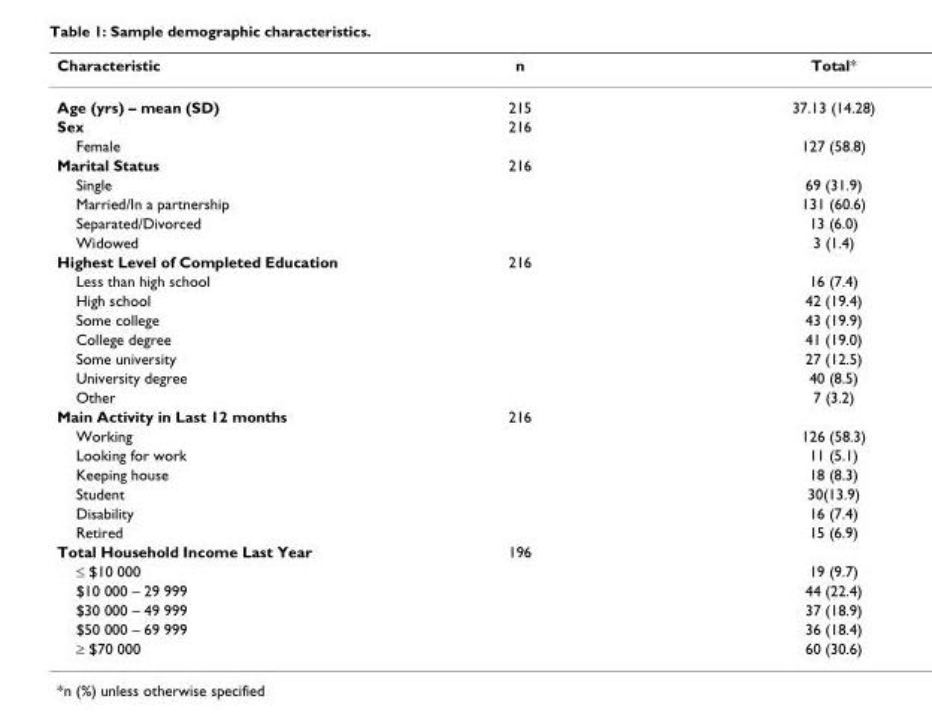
<table><thead><tr><td>Characteristic</td><td>n</td><td>Total*</td></tr></thead><tbody><tr><td>Age (yrs) – mean (SD)</td><td>215</td><td>37.13 (14.28)</td></tr><tr><td>Sex</td><td>216</td><td></td></tr><tr><td>Female</td><td></td><td>127 (58.8)</td></tr><tr><td>Marital Status</td><td>216</td><td></td></tr><tr><td>Single</td><td></td><td>69 (31.9)</td></tr><tr><td>Married/In a partnership</td><td></td><td>131 (60.6)</td></tr><tr><td>Separated/Divorced</td><td></td><td>13 (6.0)</td></tr><tr><td>Widowed</td><td></td><td>3 (1.4)</td></tr><tr><td>Highest Level of Completed Education</td><td>216</td><td></td></tr><tr><td>Less than high school</td><td></td><td>16 (7.4)</td></tr><tr><td>High school</td><td></td><td>42 (19.4)</td></tr><tr><td>Some college</td><td></td><td>43 (19.9)</td></tr><tr><td>College degree</td><td></td><td>41 (19.0)</td></tr><tr><td>Some university</td><td></td><td>27 (12.5)</td></tr><tr><td>University degree</td><td></td><td>40 (8.5)</td></tr><tr><td>Other</td><td></td><td>7 (3.2)</td></tr><tr><td>Main Activity in Last 12 months</td><td>216</td><td></td></tr><tr><td>Working</td><td></td><td>126 (58.3)</td></tr><tr><td>Looking for work</td><td></td><td>11 (5.1)</td></tr><tr><td>Keeping house</td><td></td><td>18 (8.3)</td></tr><tr><td>Student</td><td></td><td>30(13.9)</td></tr><tr><td>Disability</td><td></td><td>16 (7.4)</td></tr><tr><td>Retired</td><td></td><td>15 (6.9)</td></tr><tr><td>Total Household Income Last Year</td><td>196</td><td></td></tr><tr><td>≤ $10 000</td><td></td><td>19 (9.7)</td></tr><tr><td>$10 000 – 29 999</td><td></td><td>44 (22.4)</td></tr><tr><td>$30 000 – 49 999</td><td></td><td>37 (18.9)</td></tr><tr><td>$50 000 – 69 999</td><td></td><td>36 (18.4)</td></tr><tr><td>≥ $70 000</td><td></td><td>60 (30.6)</td></tr></tbody></table>